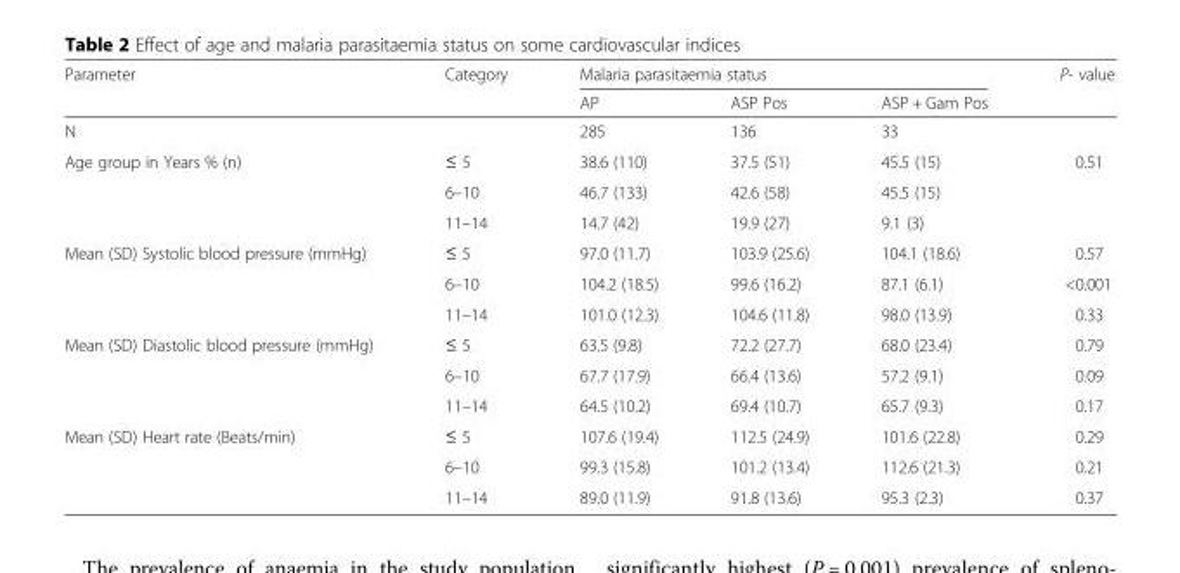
<table><thead><tr><td rowspan="2">Parameter</td><td rowspan="2">Category</td><td colspan="3">Malaria parasitaemia status</td><td rowspan="2">P- value</td></tr><tr><td>AP</td><td>ASP Pos</td><td>ASP + Gam Pos</td></tr></thead><tbody><tr><td colspan="2">N</td><td>285</td><td>136</td><td>33</td><td></td></tr><tr><td rowspan="3">Age group in Years % (n)</td><td>≤ 5</td><td>38.6 (110)</td><td>37.5 (51)</td><td>45.5 (15)</td><td rowspan="3">0.51</td></tr><tr><td>6–10</td><td>46.7 (133)</td><td>42.6 (58)</td><td>45.5 (15)</td></tr><tr><td>11–14</td><td>14.7 (42)</td><td>19.9 (27)</td><td>9.1 (3)</td></tr><tr><td rowspan="3">Mean (SD) Systolic blood pressure (mmHg)</td><td>≤ 5</td><td>97.0 (11.7)</td><td>103.9 (25.6)</td><td>104.1 (18.6)</td><td>0.57</td></tr><tr><td>6–10</td><td>104.2 (18.5)</td><td>99.6 (16.2)</td><td>87.1 (6.1)</td><td>&lt;0.001</td></tr><tr><td>11–14</td><td>101.0 (12.3)</td><td>104.6 (11.8)</td><td>98.0 (13.9)</td><td>0.33</td></tr><tr><td rowspan="3">Mean (SD) Diastolic blood pressure (mmHg)</td><td>≤ 5</td><td>63.5 (9.8)</td><td>72.2 (27.7)</td><td>68.0 (23.4)</td><td>0.79</td></tr><tr><td>6–10</td><td>67.7 (17.9)</td><td>66.4 (13.6)</td><td>57.2 (9.1)</td><td>0.09</td></tr><tr><td>11–14</td><td>64.5 (10.2)</td><td>69.4 (10.7)</td><td>65.7 (9.3)</td><td>0.17</td></tr><tr><td rowspan="3">Mean (SD) Heart rate (Beats/min)</td><td>≤ 5</td><td>107.6 (19.4)</td><td>112.5 (24.9)</td><td>101.6 (22.8)</td><td>0.29</td></tr><tr><td>6–10</td><td>99.3 (15.8)</td><td>101.2 (13.4)</td><td>112.6 (21.3)</td><td>0.21</td></tr><tr><td>11–14</td><td>89.0 (11.9)</td><td>91.8 (13.6)</td><td>95.3 (2.3)</td><td>0.37</td></tr></tbody></table>